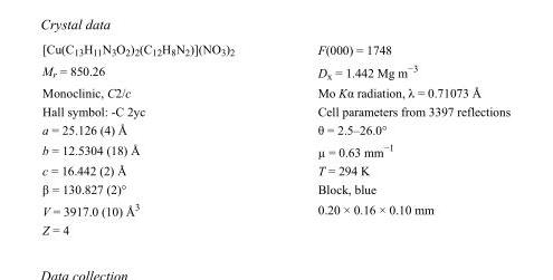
<table><tbody><tr><td>[Cu(C<sub>13</sub>H<sub>11</sub>N<sub>3</sub>O<sub>2</sub>)<sub>2</sub>(C<sub>12</sub>H<sub>8</sub>N<sub>2</sub>)](NO<sub>3</sub>)<sub>2</sub></td><td>F(000) = 1748</td></tr><tr><td>M<sub>r</sub> = 850.26</td><td>D<sub>x</sub> = 1.442 Mg m<sup>−3</sup></td></tr><tr><td>Monoclinic, C2/c</td><td>Mo Kα radiation, λ = 0.71073 Å</td></tr><tr><td>Hall symbol: -C 2yc</td><td>Cell parameters from 3397 reflections</td></tr><tr><td>a = 25.126 (4) Å</td><td>θ = 2.5–26.0°</td></tr><tr><td>b = 12.5304 (18) Å</td><td>µ = 0.63 mm<sup>−1</sup></td></tr><tr><td>c = 16.442 (2) Å</td><td>T = 294 K</td></tr><tr><td>β = 130.827 (2)°</td><td>Block, blue</td></tr><tr><td>V = 3917.0 (10) Å<sup>3</sup></td><td>0.20 × 0.16 × 0.10 mm</td></tr><tr><td>Z = 4</td><td></td></tr></tbody></table>